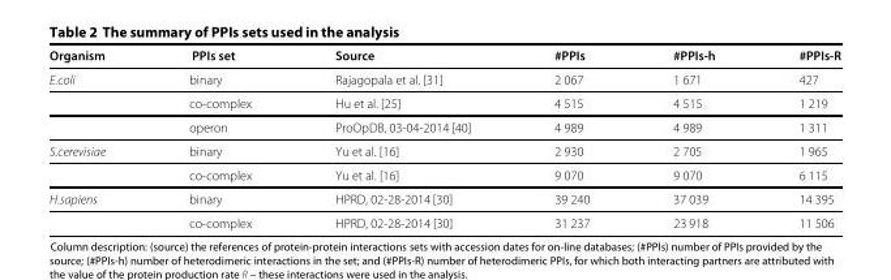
<table><thead><tr><td>Organism</td><td>PPIs set</td><td>Source</td><td>#PPIs</td><td>#PPIs-h</td><td>#PPIs-R</td></tr></thead><tbody><tr><td rowspan="3">E.coli</td><td>binary</td><td>Rajagopala et al. [31]</td><td>2 067</td><td>1 671</td><td>427</td></tr><tr><td>co-complex</td><td>Hu et al. [25]</td><td>4 515</td><td>4 515</td><td>1 219</td></tr><tr><td>operon</td><td>ProOpDB, 03-04-2014 [40]</td><td>4 989</td><td>4 989</td><td>1 311</td></tr><tr><td rowspan="2">S.cerevisiae</td><td>binary</td><td>Yu et al. [16]</td><td>2 930</td><td>2 705</td><td>1 965</td></tr><tr><td>co-complex</td><td>Yu et al. [16]</td><td>9 070</td><td>9 070</td><td>6 115</td></tr><tr><td rowspan="2">H.sapiens</td><td>binary</td><td>HPRD, 02-28-2014 [30]</td><td>39 240</td><td>37 039</td><td>14 395</td></tr><tr><td>co-complex</td><td>HPRD, 02-28-2014 [30]</td><td>31 237</td><td>23 918</td><td>11 506</td></tr></tbody></table>